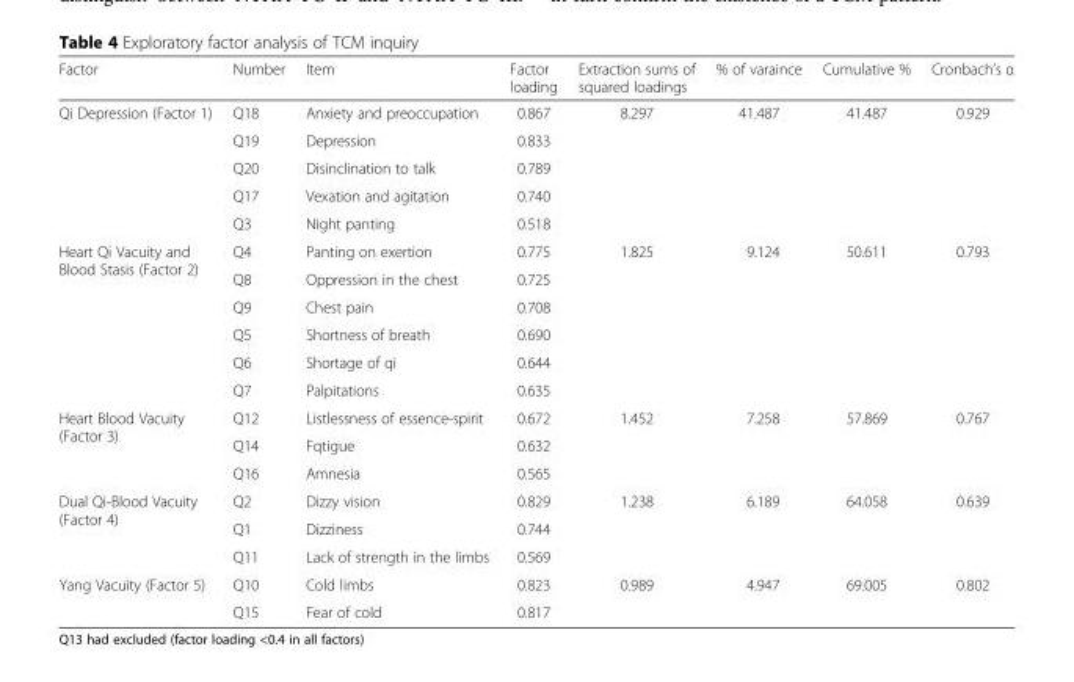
<table><thead><tr><td>Factor</td><td>Number</td><td>Item</td><td>Factor loading</td><td>Extraction sums of squared loadings</td><td>% of varaince</td><td>Cumulative %</td><td>Cronbach’s α</td></tr></thead><tbody><tr><td rowspan="5">Qi Depression (Factor 1)</td><td>Q18</td><td>Anxiety and preoccupation</td><td>0.867</td><td rowspan="5">8.297</td><td rowspan="5">41.487</td><td rowspan="5">41.487</td><td rowspan="5">0.929</td></tr><tr><td>Q19</td><td>Depression</td><td>0.833</td></tr><tr><td>Q20</td><td>Disinclination to talk</td><td>0.789</td></tr><tr><td>Q17</td><td>Vexation and agitation</td><td>0.740</td></tr><tr><td>Q3</td><td>Night panting</td><td>0.518</td></tr><tr><td rowspan="6">Heart Qi Vacuity and Blood Stasis (Factor 2)</td><td>Q4</td><td>Panting on exertion</td><td>0.775</td><td rowspan="6">1.825</td><td rowspan="6">9.124</td><td rowspan="6">50.611</td><td rowspan="6">0.793</td></tr><tr><td>Q8</td><td>Oppression in the chest</td><td>0.725</td></tr><tr><td>Q9</td><td>Chest pain</td><td>0.708</td></tr><tr><td>Q5</td><td>Shortness of breath</td><td>0.690</td></tr><tr><td>Q6</td><td>Shortage of qi</td><td>0.644</td></tr><tr><td>Q7</td><td>Palpitations</td><td>0.635</td></tr><tr><td rowspan="3">Heart Blood Vacuity (Factor 3)</td><td>Q12</td><td>Listlessness of essence-spirit</td><td>0.672</td><td rowspan="3">1.452</td><td rowspan="3">7.258</td><td rowspan="3">57.869</td><td rowspan="3">0.767</td></tr><tr><td>Q14</td><td>Fqtigue</td><td>0.632</td></tr><tr><td>Q16</td><td>Amnesia</td><td>0.565</td></tr><tr><td rowspan="3">Dual Qi-Blood Vacuity (Factor 4)</td><td>Q2</td><td>Dizzy vision</td><td>0.829</td><td rowspan="3">1.238</td><td rowspan="3">6.189</td><td rowspan="3">64.058</td><td rowspan="3">0.639</td></tr><tr><td>Q1</td><td>Dizziness</td><td>0.744</td></tr><tr><td>Q11</td><td>Lack of strength in the limbs</td><td>0.569</td></tr><tr><td rowspan="2">Yang Vacuity (Factor 5)</td><td>Q10</td><td>Cold limbs</td><td>0.823</td><td rowspan="2">0.989</td><td rowspan="2">4.947</td><td rowspan="2">69.005</td><td rowspan="2">0.802</td></tr><tr><td>Q15</td><td>Fear of cold</td><td>0.817</td></tr></tbody></table>